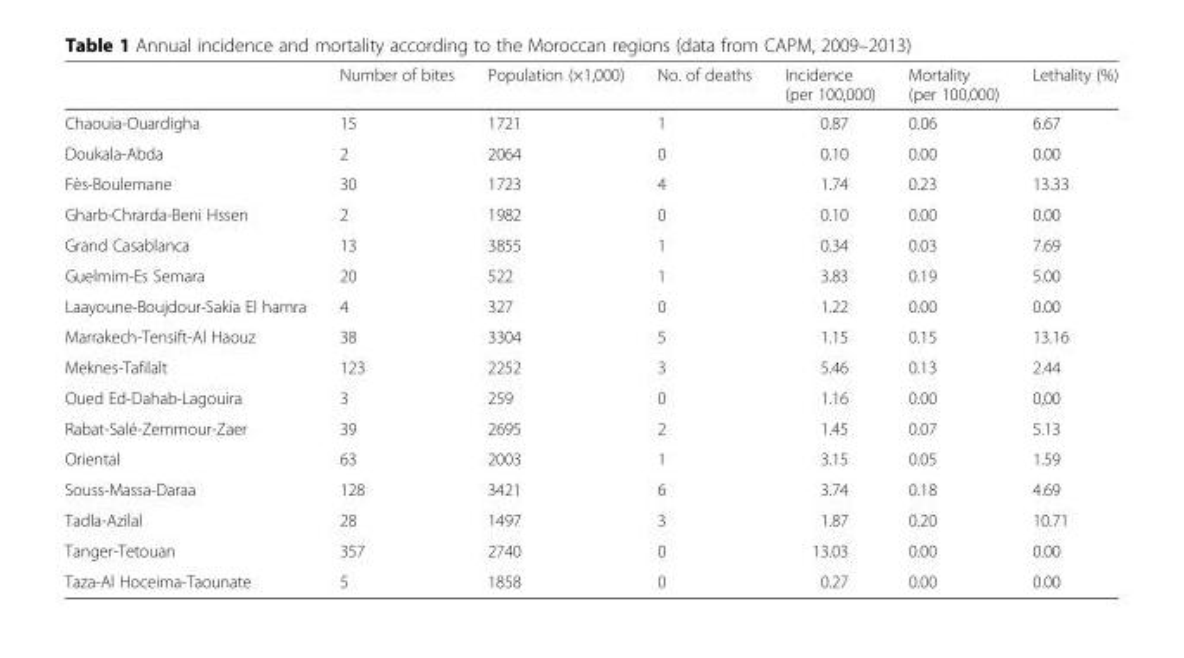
<table><thead><tr><td></td><td>Number of bites</td><td>Population (×1,000)</td><td>No. of deaths</td><td>Incidence (per 100,000)</td><td>Mortality (per 100,000)</td><td>Lethality (%)</td></tr></thead><tbody><tr><td>Chaouia-Ouardigha</td><td>15</td><td>1721</td><td>1</td><td>0.87</td><td>0.06</td><td>6.67</td></tr><tr><td>Doukala-Abda</td><td>2</td><td>2064</td><td>0</td><td>0.10</td><td>0.00</td><td>0.00</td></tr><tr><td>Fès-Boulemane</td><td>30</td><td>1723</td><td>4</td><td>1.74</td><td>0.23</td><td>13.33</td></tr><tr><td>Gharb-Chrarda-Beni Hssen</td><td>2</td><td>1982</td><td>0</td><td>0.10</td><td>0.00</td><td>0.00</td></tr><tr><td>Grand Casablanca</td><td>13</td><td>3855</td><td>1</td><td>0.34</td><td>0.03</td><td>7.69</td></tr><tr><td>Guelmim-Es Semara</td><td>20</td><td>522</td><td>1</td><td>3.83</td><td>0.19</td><td>5.00</td></tr><tr><td>Laayoune-Boujdour-Sakia El hamra</td><td>4</td><td>327</td><td>0</td><td>1.22</td><td>0.00</td><td>0.00</td></tr><tr><td>Marrakech-Tensift-Al Haouz</td><td>38</td><td>3304</td><td>5</td><td>1.15</td><td>0.15</td><td>13.16</td></tr><tr><td>Meknes-Tafilalt</td><td>123</td><td>2252</td><td>3</td><td>5.46</td><td>0.13</td><td>2.44</td></tr><tr><td>Oued Ed-Dahab-Lagouira</td><td>3</td><td>259</td><td>0</td><td>1.16</td><td>0.00</td><td>0,00</td></tr><tr><td>Rabat-Salé-Zemmour-Zaer</td><td>39</td><td>2695</td><td>2</td><td>1.45</td><td>0.07</td><td>5.13</td></tr><tr><td>Oriental</td><td>63</td><td>2003</td><td>1</td><td>3.15</td><td>0.05</td><td>1.59</td></tr><tr><td>Souss-Massa-Daraa</td><td>128</td><td>3421</td><td>6</td><td>3.74</td><td>0.18</td><td>4.69</td></tr><tr><td>Tadla-Azilal</td><td>28</td><td>1497</td><td>3</td><td>1.87</td><td>0.20</td><td>10.71</td></tr><tr><td>Tanger-Tetouan</td><td>357</td><td>2740</td><td>0</td><td>13.03</td><td>0.00</td><td>0.00</td></tr><tr><td>Taza-Al Hoceima-Taounate</td><td>5</td><td>1858</td><td>0</td><td>0.27</td><td>0.00</td><td>0.00</td></tr></tbody></table>